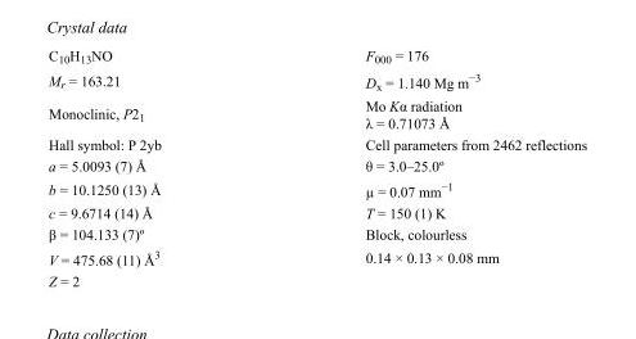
<table><tbody><tr><td>C<sub>10</sub>H<sub>13</sub>NO</td><td>F<sub>000</sub> = 176</td></tr><tr><td>M<sub>r</sub> = 163.21</td><td>D<sub>x</sub> = 1.140 Mg m<sup>−3</sup></td></tr><tr><td>Monoclinic, P2<sub>1</sub></td><td>Mo Kα radiation λ = 0.71073 Å</td></tr><tr><td>Hall symbol: P 2yb</td><td>Cell parameters from 2462 reflections</td></tr><tr><td>a = 5.0093 (7) Å</td><td>θ = 3.0–25.0º</td></tr><tr><td>b = 10.1250 (13) Å</td><td>µ = 0.07 mm<sup>−1</sup></td></tr><tr><td>c = 9.6714 (14) Å</td><td>T = 150 (1) K</td></tr><tr><td>β = 104.133 (7)º</td><td>Block, colourless</td></tr><tr><td>V = 475.68 (11) Å<sup>3</sup></td><td>0.14 × 0.13 × 0.08 mm</td></tr><tr><td>Z = 2</td><td></td></tr></tbody></table>